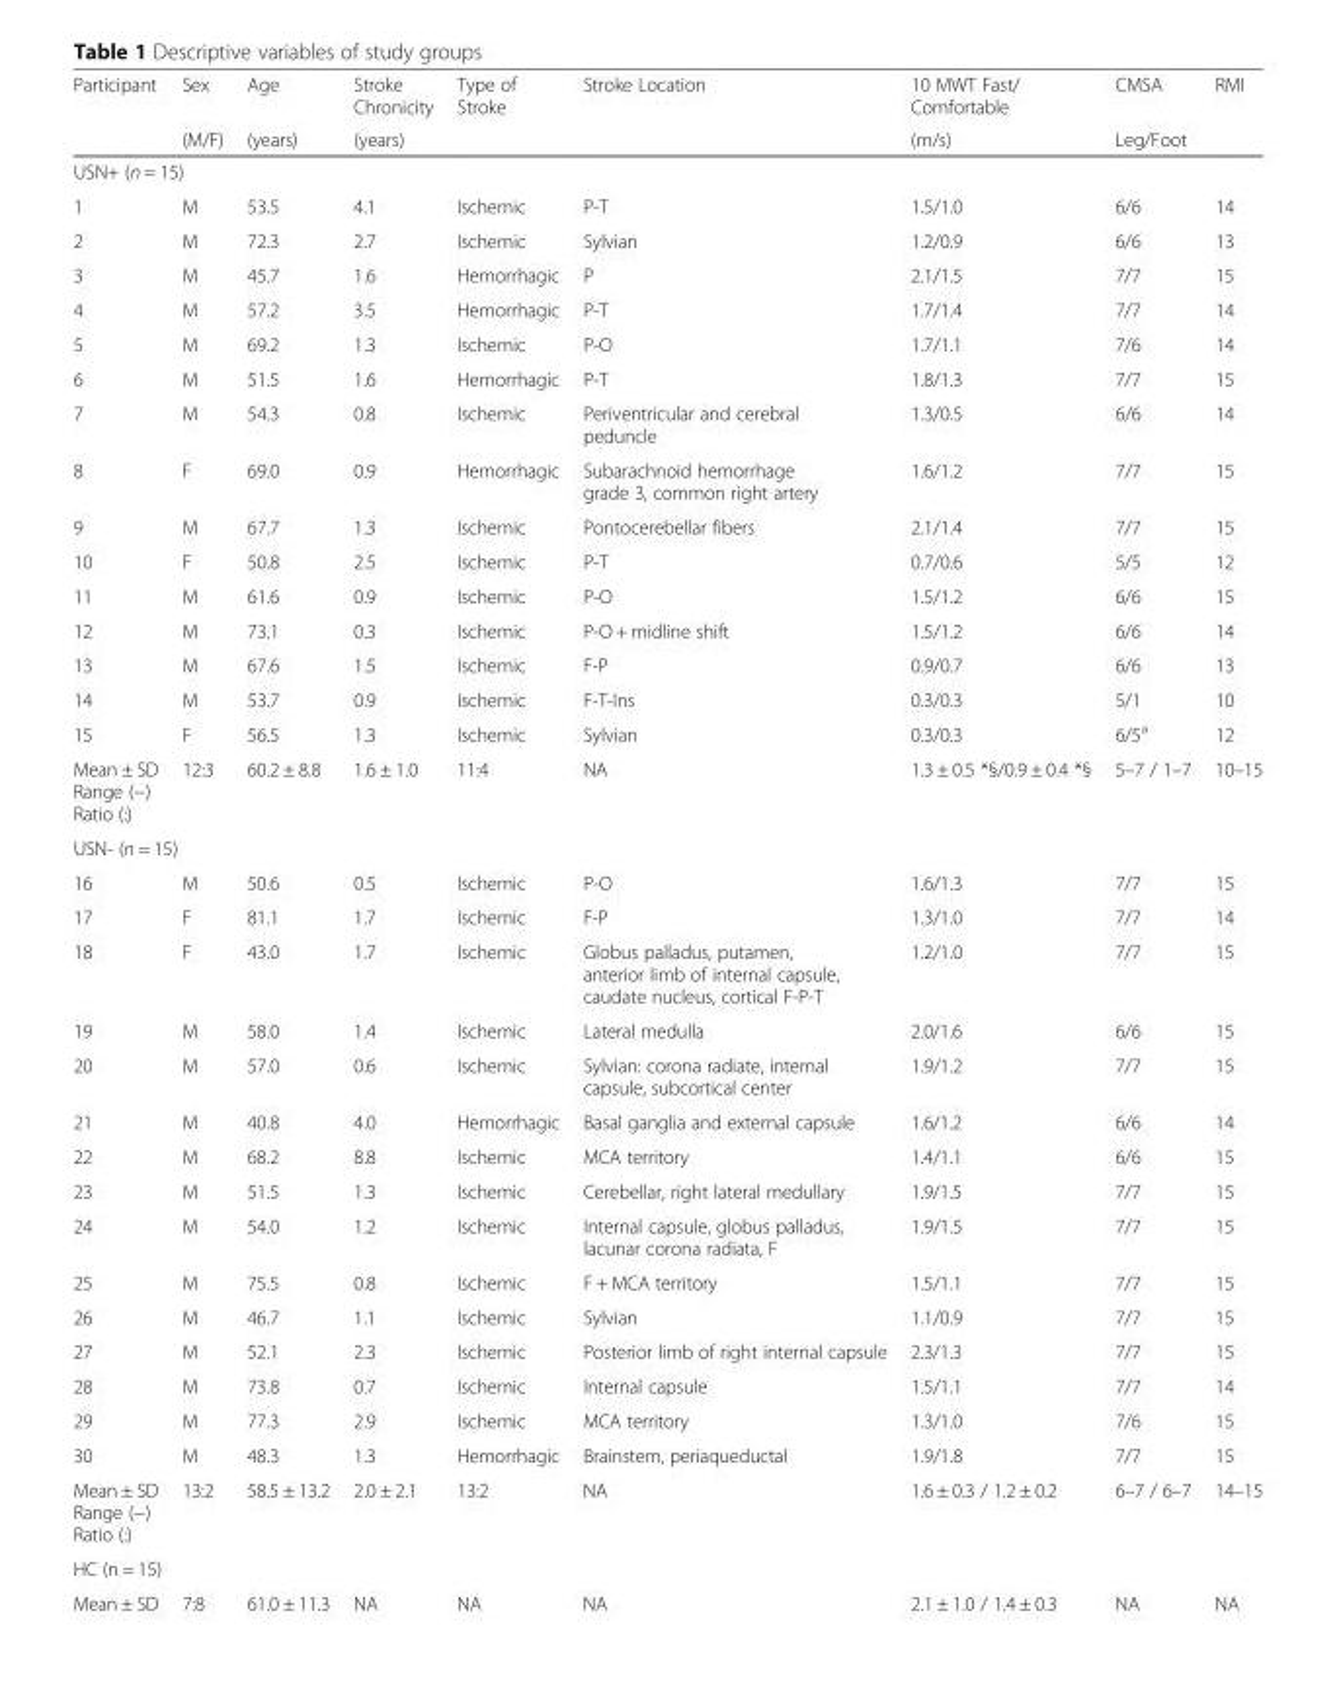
<table><thead><tr><td rowspan="2">Participant</td><td rowspan="2">Sex (M/F)</td><td rowspan="2">Age (years)</td><td rowspan="2">Stroke Chronicity (years)</td><td rowspan="2">Type of Stroke</td><td rowspan="2">Stroke Location</td><td rowspan="2">10 MWT Fast/ Comfortable (m/s)</td><td rowspan="2">CMSA Leg/Foot</td><td rowspan="2">RMI</td></tr><tr></tr></thead><tbody><tr><td colspan="9">USN+ (n = 15)</td></tr><tr><td>1</td><td>M</td><td>53.5</td><td>4.1</td><td>Ischemic</td><td>P-T</td><td>1.5/1.0</td><td>6/6</td><td>14</td></tr><tr><td>2</td><td>M</td><td>72.3</td><td>2.7</td><td>Ischemic</td><td>Sylvian</td><td>1.2/0.9</td><td>6/6</td><td>13</td></tr><tr><td>3</td><td>M</td><td>45.7</td><td>1.6</td><td>Hemorrhagic</td><td>P</td><td>2.1/1.5</td><td>7/7</td><td>15</td></tr><tr><td>4</td><td>M</td><td>57.2</td><td>3.5</td><td>Hemorrhagic</td><td>P-T</td><td>1.7/1.4</td><td>7/7</td><td>14</td></tr><tr><td>5</td><td>M</td><td>69.2</td><td>1.3</td><td>Ischemic</td><td>P-O</td><td>1.7/1.1</td><td>7/6</td><td>14</td></tr><tr><td>6</td><td>M</td><td>51.5</td><td>1.6</td><td>Hemorrhagic</td><td>P-T</td><td>1.8/1.3</td><td>7/7</td><td>15</td></tr><tr><td>7</td><td>M</td><td>54.3</td><td>0.8</td><td>Ischemic</td><td>Periventricular and cerebral peduncle</td><td>1.3/0.5</td><td>6/6</td><td>14</td></tr><tr><td>8</td><td>F</td><td>69.0</td><td>0.9</td><td>Hemorrhagic</td><td>Subarachnoid hemorrhage grade 3, common right artery</td><td>1.6/1.2</td><td>7/7</td><td>15</td></tr><tr><td>9</td><td>M</td><td>67.7</td><td>1.3</td><td>Ischemic</td><td>Pontocerebellar fibers</td><td>2.1/1.4</td><td>7/7</td><td>15</td></tr><tr><td>10</td><td>F</td><td>50.8</td><td>2.5</td><td>Ischemic</td><td>P-T</td><td>0.7/0.6</td><td>5/5</td><td>12</td></tr><tr><td>11</td><td>M</td><td>61.6</td><td>0.9</td><td>Ischemic</td><td>P-O</td><td>1.5/1.2</td><td>6/6</td><td>15</td></tr><tr><td>12</td><td>M</td><td>73.1</td><td>0.3</td><td>Ischemic</td><td>P-O + midline shift</td><td>1.5/1.2</td><td>6/6</td><td>14</td></tr><tr><td>13</td><td>M</td><td>67.6</td><td>1.5</td><td>Ischemic</td><td>F-P</td><td>0.9/0.7</td><td>6/6</td><td>13</td></tr><tr><td>14</td><td>M</td><td>53.7</td><td>0.9</td><td>Ischemic</td><td>F-T-Ins</td><td>0.3/0.3</td><td>5/1</td><td>10</td></tr><tr><td>15</td><td>F</td><td>56.5</td><td>1.3</td><td>Ischemic</td><td>Sylvian</td><td>0.3/0.3</td><td>6/5<sup>a</sup></td><td>12</td></tr><tr><td>Mean ± SD Range (−) Ratio (:)</td><td>12:3</td><td>60.2 ± 8.8</td><td>1.6 ± 1.0</td><td>11:4</td><td>NA</td><td>1.3 ± 0.5 *§/0.9 ± 0.4 *§</td><td>5–7 / 1–7</td><td>10–15</td></tr><tr><td colspan="9">USN- (n = 15)</td></tr><tr><td>16</td><td>M</td><td>50.6</td><td>0.5</td><td>Ischemic</td><td>P-O</td><td>1.6/1.3</td><td>7/7</td><td>15</td></tr><tr><td>17</td><td>F</td><td>81.1</td><td>1.7</td><td>Ischemic</td><td>F-P</td><td>1.3/1.0</td><td>7/7</td><td>14</td></tr><tr><td>18</td><td>F</td><td>43.0</td><td>1.7</td><td>Ischemic</td><td>Globus palladus, putamen, anterior limb of internal capsule, caudate nucleus, cortical F-P-T</td><td>1.2/1.0</td><td>7/7</td><td>15</td></tr><tr><td>19</td><td>M</td><td>58.0</td><td>1.4</td><td>Ischemic</td><td>Lateral medulla</td><td>2.0/1.6</td><td>6/6</td><td>15</td></tr><tr><td>20</td><td>M</td><td>57.0</td><td>0.6</td><td>Ischemic</td><td>Sylvian: corona radiate, internal capsule, subcortical center</td><td>1.9/1.2</td><td>7/7</td><td>15</td></tr><tr><td>21</td><td>M</td><td>40.8</td><td>4.0</td><td>Hemorrhagic</td><td>Basal ganglia and external capsule</td><td>1.6/1.2</td><td>6/6</td><td>14</td></tr><tr><td>22</td><td>M</td><td>68.2</td><td>8.8</td><td>Ischemic</td><td>MCA territory</td><td>1.4/1.1</td><td>6/6</td><td>15</td></tr><tr><td>23</td><td>M</td><td>51.5</td><td>1.3</td><td>Ischemic</td><td>Cerebellar, right lateral medullary</td><td>1.9/1.5</td><td>7/7</td><td>15</td></tr><tr><td>24</td><td>M</td><td>54.0</td><td>1.2</td><td>Ischemic</td><td>Internal capsule, globus palladus, lacunar corona radiata, F</td><td>1.9/1.5</td><td>7/7</td><td>15</td></tr><tr><td>25</td><td>M</td><td>75.5</td><td>0.8</td><td>Ischemic</td><td>F + MCA territory</td><td>1.5/1.1</td><td>7/7</td><td>15</td></tr><tr><td>26</td><td>M</td><td>46.7</td><td>1.1</td><td>Ischemic</td><td>Sylvian</td><td>1.1/0.9</td><td>7/7</td><td>15</td></tr><tr><td>27</td><td>M</td><td>52.1</td><td>2.3</td><td>Ischemic</td><td>Posterior limb of right internal capsule</td><td>2.3/1.3</td><td>7/7</td><td>15</td></tr><tr><td>28</td><td>M</td><td>73.8</td><td>0.7</td><td>Ischemic</td><td>Internal capsule</td><td>1.5/1.1</td><td>7/7</td><td>14</td></tr><tr><td>29</td><td>M</td><td>77.3</td><td>2.9</td><td>Ischemic</td><td>MCA territory</td><td>1.3/1.0</td><td>7/6</td><td>15</td></tr><tr><td>30</td><td>M</td><td>48.3</td><td>1.3</td><td>Hemorrhagic</td><td>Brainstem, periaqueductal</td><td>1.9/1.8</td><td>7/7</td><td>15</td></tr><tr><td>Mean ± SD Range (−) Ratio (:)</td><td>13:2</td><td>58.5 ± 13.2</td><td>2.0 ± 2.1</td><td>13:2</td><td>NA</td><td>1.6 ± 0.3 / 1.2 ± 0.2</td><td>6–7 / 6–7</td><td>14–15</td></tr><tr><td colspan="9">HC (n = 15)</td></tr><tr><td>Mean ± SD</td><td>7:8</td><td>61.0 ± 11.3</td><td>NA</td><td>NA</td><td>NA</td><td>2.1 ± 1.0 / 1.4 ± 0.3</td><td>NA</td><td>NA</td></tr></tbody></table>